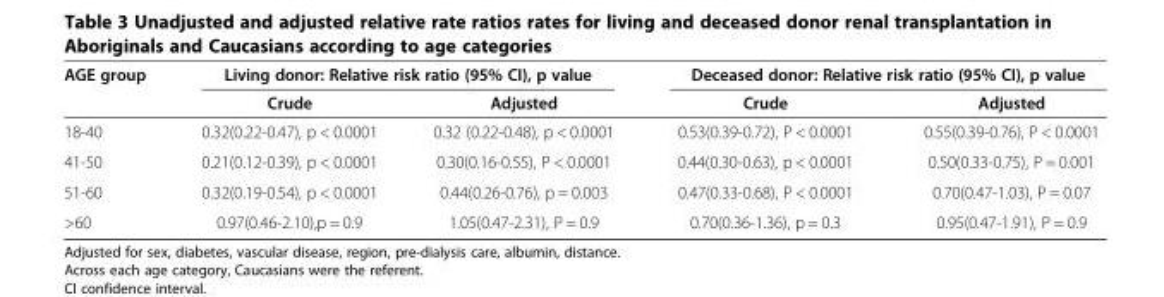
<table><thead><tr><td rowspan="2">AGE group</td><td colspan="2">Living donor: Relative risk ratio (95% CI), p value</td><td colspan="2">Deceased donor: Relative risk ratio (95% CI), p value</td></tr><tr><td>Crude</td><td>Adjusted</td><td>Crude</td><td>Adjusted</td></tr></thead><tbody><tr><td>18-40</td><td>0.32(0.22-0.47), p &lt; 0.0001</td><td>0.32 (0.22-0.48), p &lt; 0.0001</td><td>0.53(0.39-0.72), P &lt; 0.0001</td><td>0.55(0.39-0.76), P &lt; 0.0001</td></tr><tr><td>41-50</td><td>0.21(0.12-0.39), p &lt; 0.0001</td><td>0.30(0.16-0.55), P &lt; 0.0001</td><td>0.44(0.30-0.63), p &lt; 0.0001</td><td>0.50(0.33-0.75), P = 0.001</td></tr><tr><td>51-60</td><td>0.32(0.19-0.54), p &lt; 0.0001</td><td>0.44(0.26-0.76), p = 0.003</td><td>0.47(0.33-0.68), P &lt; 0.0001</td><td>0.70(0.47-1.03), P = 0.07</td></tr><tr><td>&gt;60</td><td>0.97(0.46-2.10),p = 0.9</td><td>1.05(0.47-2.31), P = 0.9</td><td>0.70(0.36-1.36), p = 0.3</td><td>0.95(0.47-1.91), P = 0.9</td></tr></tbody></table>